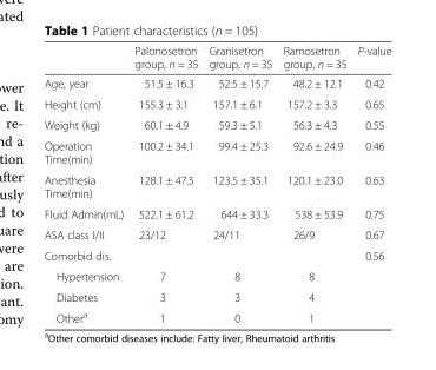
<table><thead><tr><td></td><td>Palonosetron group, n = 35</td><td>Granisetron group, n = 35</td><td>Ramosetron group, n = 35</td><td>P-value</td></tr></thead><tbody><tr><td>Age, year</td><td>51.5 ± 16.3</td><td>52.5 ± 15.7</td><td>48.2 ± 12.1</td><td>0.42</td></tr><tr><td>Height (cm)</td><td>155.3 ± 3.1</td><td>157.1 ± 6.1</td><td>157.2 ± 3.3</td><td>0.65</td></tr><tr><td>Weight (kg)</td><td>60.1 ± 4.9</td><td>59.3 ± 5.1</td><td>56.3 ± 4.3</td><td>0.55</td></tr><tr><td>Operation Time(min)</td><td>100.2 ± 34.1</td><td>99.4 ± 25.3</td><td>92.6 ± 24.9</td><td>0.46</td></tr><tr><td>Anesthesia Time(min)</td><td>128.1 ± 47.5</td><td>123.5 ± 35.1</td><td>120.1 ± 23.0</td><td>0.63</td></tr><tr><td>Fluid Admin(mL)</td><td>522.1 ± 61.2</td><td>644 ± 33.3</td><td>538 ± 53.9</td><td>0.75</td></tr><tr><td>ASA class I/II</td><td>23/12</td><td>24/11</td><td>26/9</td><td>0.67</td></tr><tr><td>Comorbid dis.</td><td></td><td></td><td></td><td>0.56</td></tr><tr><td>Hypertension</td><td>7</td><td>8</td><td>8</td><td></td></tr><tr><td>Diabetes</td><td>3</td><td>3</td><td>4</td><td></td></tr><tr><td>Other<sup>a</sup></td><td>1</td><td>0</td><td>1</td><td></td></tr></tbody></table>